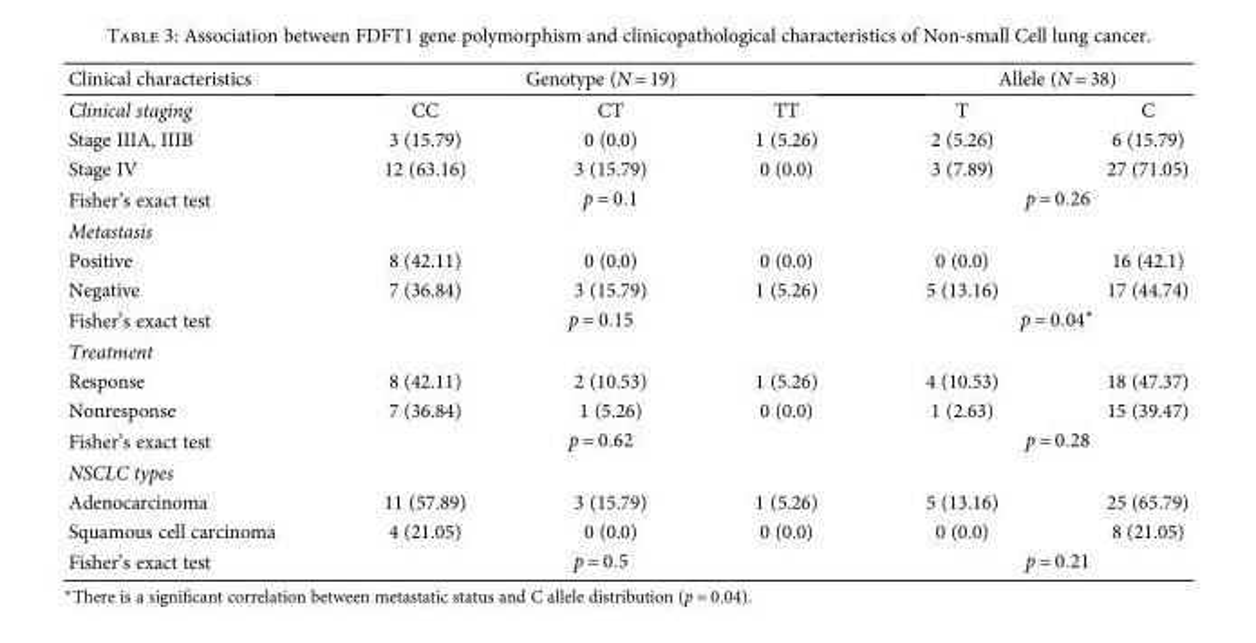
<table><thead><tr><td rowspan="2">Clinical characteristics Clinical staging</td><td colspan="3">Genotype (N = 19)</td><td colspan="2">Allele (N = 38)</td></tr><tr><td>CC</td><td>CT</td><td>TT</td><td>T</td><td>C</td></tr></thead><tbody><tr><td>Stage IIIA, IIIB</td><td>3 (15.79)</td><td>0 (0.0)</td><td>1 (5.26)</td><td>2 (5.26)</td><td>6 (15.79)</td></tr><tr><td>Stage IV</td><td>12 (63.16)</td><td>3 (15.79)</td><td>0 (0.0)</td><td>3 (7.89)</td><td>27 (71.05)</td></tr><tr><td>Fisher’s exact test</td><td></td><td>p = 0 1</td><td></td><td colspan="2">p = 0 26</td></tr><tr><td colspan="6">Metastasis</td></tr><tr><td>Positive</td><td>8 (42.11)</td><td>0 (0.0)</td><td>0 (0.0)</td><td>0 (0.0)</td><td>16 (42.1)</td></tr><tr><td>Negative</td><td>7 (36.84)</td><td>3 (15.79)</td><td>1 (5.26)</td><td>5 (13.16)</td><td>17 (44.74)</td></tr><tr><td>Fisher’s exact test</td><td colspan="3">p = 0 15</td><td colspan="2">p = 0 04∗</td></tr><tr><td colspan="6">Treatment</td></tr><tr><td>Response</td><td>8 (42.11)</td><td>2 (10.53)</td><td>1 (5.26)</td><td>4 (10.53)</td><td>18 (47.37)</td></tr><tr><td>Nonresponse</td><td>7 (36.84)</td><td>1 (5.26)</td><td>0 (0.0)</td><td>1 (2.63)</td><td>15 (39.47)</td></tr><tr><td>Fisher’s exact test</td><td colspan="3">p = 0 62</td><td colspan="2">p = 0 28</td></tr><tr><td colspan="6">NSCLC types</td></tr><tr><td>Adenocarcinoma</td><td>11 (57.89)</td><td>3 (15.79)</td><td>1 (5.26)</td><td>5 (13.16)</td><td>25 (65.79)</td></tr><tr><td>Squamous cell carcinoma</td><td>4 (21.05)</td><td>0 (0.0)</td><td>0 (0.0)</td><td>0 (0.0)</td><td>8 (21.05)</td></tr><tr><td>Fisher’s exact test</td><td colspan="3">p = 0 5</td><td colspan="2">p = 0 21</td></tr></tbody></table>